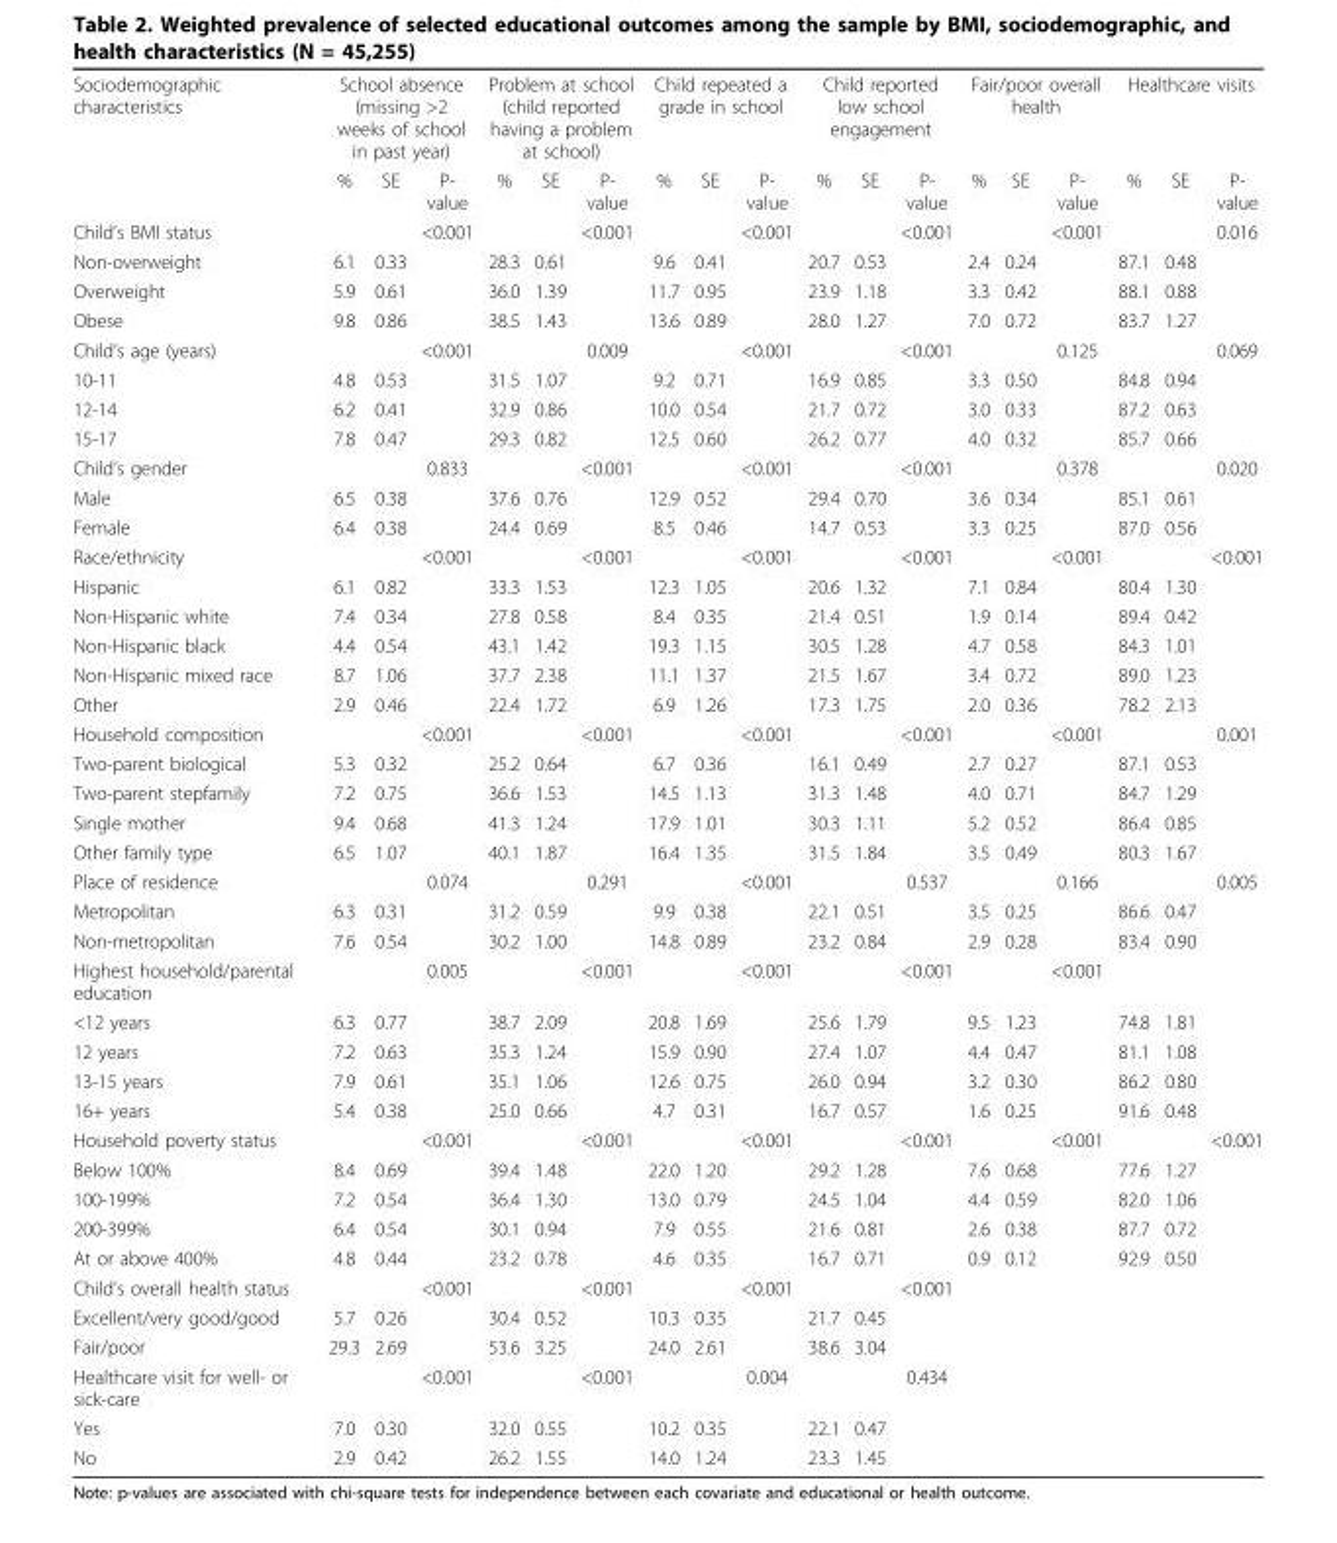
<table><tbody><tr><td rowspan="2">Sociodemographic characteristics</td><td colspan="3">School absence (missing &gt;2 weeks of school in past year)</td><td colspan="3">Problem at school (child reported having a problem at school)</td><td colspan="3">Child repeated a grade in school</td><td colspan="3">Child reported low school engagement</td><td colspan="3">Fair/poor overall health</td><td colspan="3">Healthcare visits</td></tr><tr><td>%</td><td>SE</td><td>P- value</td><td>%</td><td>SE</td><td>P- value</td><td>%</td><td>SE</td><td>P- value</td><td>%</td><td>SE</td><td>P- value</td><td>%</td><td>SE</td><td>P- value</td><td>%</td><td>SE</td><td>P- value</td></tr><tr><td>Child’s BMI status</td><td></td><td></td><td>&lt;0.001</td><td></td><td></td><td>&lt;0.001</td><td></td><td></td><td>&lt;0.001</td><td></td><td></td><td>&lt;0.001</td><td></td><td></td><td>&lt;0.001</td><td></td><td></td><td>0.016</td></tr><tr><td>Non-overweight</td><td>6.1</td><td>0.33</td><td></td><td>28.3</td><td>0.61</td><td></td><td>9.6</td><td>0.41</td><td></td><td>20.7</td><td>0.53</td><td></td><td>2.4</td><td>0.24</td><td></td><td>87.1</td><td>0.48</td><td></td></tr><tr><td>Overweight</td><td>5.9</td><td>0.61</td><td></td><td>36.0</td><td>1.39</td><td></td><td>11.7</td><td>0.95</td><td></td><td>23.9</td><td>1.18</td><td></td><td>3.3</td><td>0.42</td><td></td><td>88.1</td><td>0.88</td><td></td></tr><tr><td>Obese</td><td>9.8</td><td>0.86</td><td></td><td>38.5</td><td>1.43</td><td></td><td>13.6</td><td>0.89</td><td></td><td>28.0</td><td>1.27</td><td></td><td>7.0</td><td>0.72</td><td></td><td>83.7</td><td>1.27</td><td></td></tr><tr><td>Child’s age (years)</td><td></td><td></td><td>&lt;0.001</td><td></td><td></td><td>0.009</td><td></td><td></td><td>&lt;0.001</td><td></td><td></td><td>&lt;0.001</td><td></td><td></td><td>0.125</td><td></td><td></td><td>0.069</td></tr><tr><td>10-11</td><td>4.8</td><td>0.53</td><td></td><td>31.5</td><td>1.07</td><td></td><td>9.2</td><td>0.71</td><td></td><td>16.9</td><td>0.85</td><td></td><td>3.3</td><td>0.50</td><td></td><td>84.8</td><td>0.94</td><td></td></tr><tr><td>12-14</td><td>6.2</td><td>0.41</td><td></td><td>32.9</td><td>0.86</td><td></td><td>10.0</td><td>0.54</td><td></td><td>21.7</td><td>0.72</td><td></td><td>3.0</td><td>0.33</td><td></td><td>87.2</td><td>0.63</td><td></td></tr><tr><td>15-17</td><td>7.8</td><td>0.47</td><td></td><td>29.3</td><td>0.82</td><td></td><td>12.5</td><td>0.60</td><td></td><td>26.2</td><td>0.77</td><td></td><td>4.0</td><td>0.32</td><td></td><td>85.7</td><td>0.66</td><td></td></tr><tr><td>Child’s gender</td><td></td><td></td><td>0.833</td><td></td><td></td><td>&lt;0.001</td><td></td><td></td><td>&lt;0.001</td><td></td><td></td><td>&lt;0.001</td><td></td><td></td><td>0.378</td><td></td><td></td><td>0.020</td></tr><tr><td>Male</td><td>6.5</td><td>0.38</td><td></td><td>37.6</td><td>0.76</td><td></td><td>12.9</td><td>0.52</td><td></td><td>29.4</td><td>0.70</td><td></td><td>3.6</td><td>0.34</td><td></td><td>85.1</td><td>0.61</td><td></td></tr><tr><td>Female</td><td>6.4</td><td>0.38</td><td></td><td>24.4</td><td>0.69</td><td></td><td>8.5</td><td>0.46</td><td></td><td>14.7</td><td>0.53</td><td></td><td>3.3</td><td>0.25</td><td></td><td>87.0</td><td>0.56</td><td></td></tr><tr><td>Race/ethnicity</td><td></td><td></td><td>&lt;0.001</td><td></td><td></td><td>&lt;0.001</td><td></td><td></td><td>&lt;0.001</td><td></td><td></td><td>&lt;0.001</td><td></td><td></td><td>&lt;0.001</td><td></td><td></td><td>&lt;0.001</td></tr><tr><td>Hispanic</td><td>6.1</td><td>0.82</td><td></td><td>33.3</td><td>1.53</td><td></td><td>12.3</td><td>1.05</td><td></td><td>20.6</td><td>1.32</td><td></td><td>7.1</td><td>0.84</td><td></td><td>80.4</td><td>1.30</td><td></td></tr><tr><td>Non-Hispanic white</td><td>7.4</td><td>0.34</td><td></td><td>27.8</td><td>0.58</td><td></td><td>8.4</td><td>0.35</td><td></td><td>21.4</td><td>0.51</td><td></td><td>1.9</td><td>0.14</td><td></td><td>89.4</td><td>0.42</td><td></td></tr><tr><td>Non-Hispanic black</td><td>4.4</td><td>0.54</td><td></td><td>43.1</td><td>1.42</td><td></td><td>19.3</td><td>1.15</td><td></td><td>30.5</td><td>1.28</td><td></td><td>4.7</td><td>0.58</td><td></td><td>84.3</td><td>1.01</td><td></td></tr><tr><td>Non-Hispanic mixed race</td><td>8.7</td><td>1.06</td><td></td><td>37.7</td><td>2.38</td><td></td><td>11.1</td><td>1.37</td><td></td><td>21.5</td><td>1.67</td><td></td><td>3.4</td><td>0.72</td><td></td><td>89.0</td><td>1.23</td><td></td></tr><tr><td>Other</td><td>2.9</td><td>0.46</td><td></td><td>22.4</td><td>1.72</td><td></td><td>6.9</td><td>1.26</td><td></td><td>17.3</td><td>1.75</td><td></td><td>2.0</td><td>0.36</td><td></td><td>78.2</td><td>2.13</td><td></td></tr><tr><td>Household composition</td><td></td><td></td><td>&lt;0.001</td><td></td><td></td><td>&lt;0.001</td><td></td><td></td><td>&lt;0.001</td><td></td><td></td><td>&lt;0.001</td><td></td><td></td><td>&lt;0.001</td><td></td><td></td><td>0.001</td></tr><tr><td>Two-parent biological</td><td>5.3</td><td>0.32</td><td></td><td>25.2</td><td>0.64</td><td></td><td>6.7</td><td>0.36</td><td></td><td>16.1</td><td>0.49</td><td></td><td>2.7</td><td>0.27</td><td></td><td>87.1</td><td>0.53</td><td></td></tr><tr><td>Two-parent stepfamily</td><td>7.2</td><td>0.75</td><td></td><td>36.6</td><td>1.53</td><td></td><td>14.5</td><td>1.13</td><td></td><td>31.3</td><td>1.48</td><td></td><td>4.0</td><td>0.71</td><td></td><td>84.7</td><td>1.29</td><td></td></tr><tr><td>Single mother</td><td>9.4</td><td>0.68</td><td></td><td>41.3</td><td>1.24</td><td></td><td>17.9</td><td>1.01</td><td></td><td>30.3</td><td>1.11</td><td></td><td>5.2</td><td>0.52</td><td></td><td>86.4</td><td>0.85</td><td></td></tr><tr><td>Other family type</td><td>6.5</td><td>1.07</td><td></td><td>40.1</td><td>1.87</td><td></td><td>16.4</td><td>1.35</td><td></td><td>31.5</td><td>1.84</td><td></td><td>3.5</td><td>0.49</td><td></td><td>80.3</td><td>1.67</td><td></td></tr><tr><td>Place of residence</td><td></td><td></td><td>0.074</td><td></td><td></td><td>0.291</td><td></td><td></td><td>&lt;0.001</td><td></td><td></td><td>0.537</td><td></td><td></td><td>0.166</td><td></td><td></td><td>0.005</td></tr><tr><td>Metropolitan</td><td>6.3</td><td>0.31</td><td></td><td>31.2</td><td>0.59</td><td></td><td>9.9</td><td>0.38</td><td></td><td>22.1</td><td>0.51</td><td></td><td>3.5</td><td>0.25</td><td></td><td>86.6</td><td>0.47</td><td></td></tr><tr><td>Non-metropolitan</td><td>7.6</td><td>0.54</td><td></td><td>30.2</td><td>1.00</td><td></td><td>14.8</td><td>0.89</td><td></td><td>23.2</td><td>0.84</td><td></td><td>2.9</td><td>0.28</td><td></td><td>83.4</td><td>0.90</td><td></td></tr><tr><td>Highest household/parental education</td><td></td><td></td><td>0.005</td><td></td><td></td><td>&lt;0.001</td><td></td><td></td><td>&lt;0.001</td><td></td><td></td><td>&lt;0.001</td><td></td><td></td><td>&lt;0.001</td><td></td><td></td><td></td></tr><tr><td>&lt;12 years</td><td>6.3</td><td>0.77</td><td></td><td>38.7</td><td>2.09</td><td></td><td>20.8</td><td>1.69</td><td></td><td>25.6</td><td>1.79</td><td></td><td>9.5</td><td>1.23</td><td></td><td>74.8</td><td>1.81</td><td></td></tr><tr><td>12 years</td><td>7.2</td><td>0.63</td><td></td><td>35.3</td><td>1.24</td><td></td><td>15.9</td><td>0.90</td><td></td><td>27.4</td><td>1.07</td><td></td><td>4.4</td><td>0.47</td><td></td><td>81.1</td><td>1.08</td><td></td></tr><tr><td>13-15 years</td><td>7.9</td><td>0.61</td><td></td><td>35.1</td><td>1.06</td><td></td><td>12.6</td><td>0.75</td><td></td><td>26.0</td><td>0.94</td><td></td><td>3.2</td><td>0.30</td><td></td><td>86.2</td><td>0.80</td><td></td></tr><tr><td>16+ years</td><td>5.4</td><td>0.38</td><td></td><td>25.0</td><td>0.66</td><td></td><td>4.7</td><td>0.31</td><td></td><td>16.7</td><td>0.57</td><td></td><td>1.6</td><td>0.25</td><td></td><td>91.6</td><td>0.48</td><td></td></tr><tr><td>Household poverty status</td><td></td><td></td><td>&lt;0.001</td><td></td><td></td><td>&lt;0.001</td><td></td><td></td><td>&lt;0.001</td><td></td><td></td><td>&lt;0.001</td><td></td><td></td><td>&lt;0.001</td><td></td><td></td><td>&lt;0.001</td></tr><tr><td>Below 100%</td><td>8.4</td><td>0.69</td><td></td><td>39.4</td><td>1.48</td><td></td><td>22.0</td><td>1.20</td><td></td><td>29.2</td><td>1.28</td><td></td><td>7.6</td><td>0.68</td><td></td><td>77.6</td><td>1.27</td><td></td></tr><tr><td>100-199%</td><td>7.2</td><td>0.54</td><td></td><td>36.4</td><td>1.30</td><td></td><td>13.0</td><td>0.79</td><td></td><td>24.5</td><td>1.04</td><td></td><td>4.4</td><td>0.59</td><td></td><td>82.0</td><td>1.06</td><td></td></tr><tr><td>200-399%</td><td>6.4</td><td>0.54</td><td></td><td>30.1</td><td>0.94</td><td></td><td>7.9</td><td>0.55</td><td></td><td>21.6</td><td>0.81</td><td></td><td>2.6</td><td>0.38</td><td></td><td>87.7</td><td>0.72</td><td></td></tr><tr><td>At or above 400%</td><td>4.8</td><td>0.44</td><td></td><td>23.2</td><td>0.78</td><td></td><td>4.6</td><td>0.35</td><td></td><td>16.7</td><td>0.71</td><td></td><td>0.9</td><td>0.12</td><td></td><td>92.9</td><td>0.50</td><td></td></tr><tr><td>Child’s overall health status</td><td></td><td></td><td>&lt;0.001</td><td></td><td></td><td>&lt;0.001</td><td></td><td></td><td>&lt;0.001</td><td></td><td></td><td>&lt;0.001</td><td></td><td></td><td></td><td></td><td></td><td></td></tr><tr><td>Excellent/very good/good</td><td>5.7</td><td>0.26</td><td></td><td>30.4</td><td>0.52</td><td></td><td>10.3</td><td>0.35</td><td></td><td>21.7</td><td>0.45</td><td></td><td></td><td></td><td></td><td></td><td></td><td></td></tr><tr><td>Fair/poor</td><td>29.3</td><td>2.69</td><td></td><td>53.6</td><td>3.25</td><td></td><td>24.0</td><td>2.61</td><td></td><td>38.6</td><td>3.04</td><td></td><td></td><td></td><td></td><td></td><td></td><td></td></tr><tr><td>Healthcare visit for well- or sick-care</td><td></td><td></td><td>&lt;0.001</td><td></td><td></td><td>&lt;0.001</td><td></td><td></td><td>0.004</td><td></td><td></td><td>0.434</td><td></td><td></td><td></td><td></td><td></td><td></td></tr><tr><td>Yes</td><td>7.0</td><td>0.30</td><td></td><td>32.0</td><td>0.55</td><td></td><td>10.2</td><td>0.35</td><td></td><td>22.1</td><td>0.47</td><td></td><td></td><td></td><td></td><td></td><td></td><td></td></tr><tr><td>No</td><td>2.9</td><td>0.42</td><td></td><td>26.2</td><td>1.55</td><td></td><td>14.0</td><td>1.24</td><td></td><td>23.3</td><td>1.45</td><td></td><td></td><td></td><td></td><td></td><td></td><td></td></tr></tbody></table>